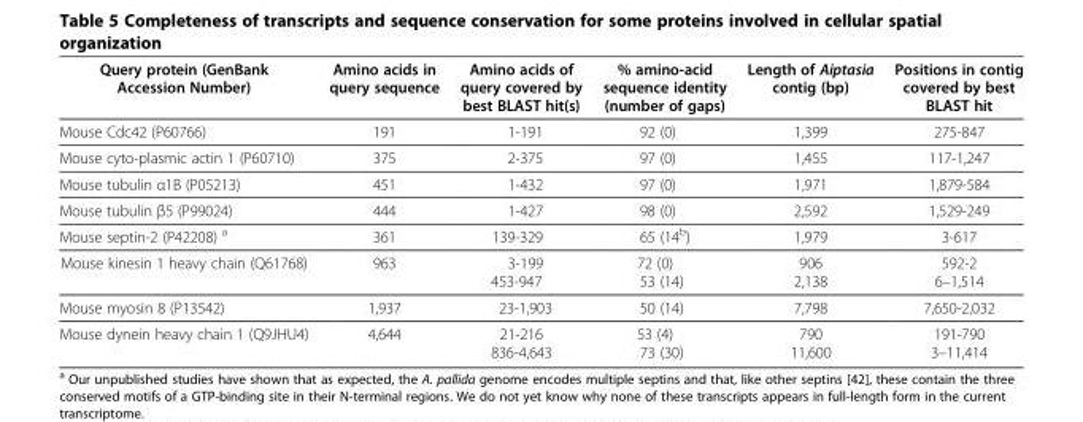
<table><thead><tr><td>Query protein (GenBank Accession Number)</td><td>Amino acids in query sequence</td><td>Amino acids of query covered by best BLAST hit(s)</td><td>% amino-acid sequence identity (number of gaps)</td><td>Length of Aiptasia contig (bp)</td><td>Positions in contig covered by best BLAST hit</td></tr></thead><tbody><tr><td>Mouse Cdc42 (P60766)</td><td>191</td><td>1-191</td><td>92 (0)</td><td>1,399</td><td>275-847</td></tr><tr><td>Mouse cyto-plasmic actin 1 (P60710)</td><td>375</td><td>2-375</td><td>97 (0)</td><td>1,455</td><td>117-1,247</td></tr><tr><td>Mouse tubulin α1B (P05213)</td><td>451</td><td>1-432</td><td>97 (0)</td><td>1,971</td><td>1,879-584</td></tr><tr><td>Mouse tubulin β5 (P99024)</td><td>444</td><td>1-427</td><td>98 (0)</td><td>2,592</td><td>1,529-249</td></tr><tr><td>Mouse septin-2 (P42208) <sup>a</sup></td><td>361</td><td>139-329</td><td>65 (14<sup>b</sup>)</td><td>1,979</td><td>3-617</td></tr><tr><td rowspan="2">Mouse kinesin 1 heavy chain (Q61768)</td><td>963</td><td>3-199</td><td>72 (0)</td><td>906</td><td>592-2</td></tr><tr><td></td><td>453-947</td><td>53 (14)</td><td>2,138</td><td>6–1,514</td></tr><tr><td>Mouse myosin 8 (P13542)</td><td>1,937</td><td>23-1,903</td><td>50 (14)</td><td>7,798</td><td>7,650-2,032</td></tr><tr><td rowspan="2">Mouse dynein heavy chain 1 (Q9JHU4)</td><td>4,644</td><td>21-216</td><td>53 (4)</td><td>790</td><td>191-790</td></tr><tr><td></td><td>836-4,643</td><td>73 (30)</td><td>11,600</td><td>3–11,414</td></tr></tbody></table>